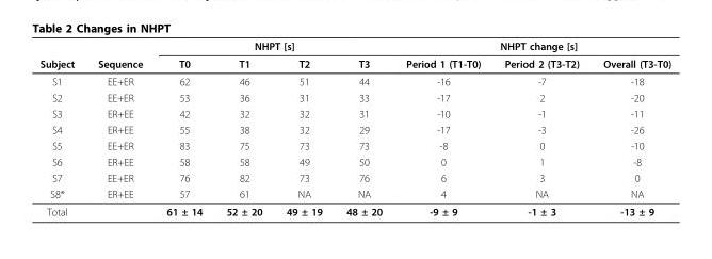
<table><thead><tr><td rowspan="2">Subject</td><td rowspan="2">Sequence</td><td colspan="4">NHPT [s]</td><td colspan="3">NHPT change [s]</td></tr><tr><td>T0</td><td>T1</td><td>T2</td><td>T3</td><td>Period 1 (T1-T0)</td><td>Period 2 (T3-T2)</td><td>Overall (T3-T0)</td></tr></thead><tbody><tr><td>S1</td><td>EE+ER</td><td>62</td><td>46</td><td>51</td><td>44</td><td>-16</td><td>-7</td><td>-18</td></tr><tr><td>S2</td><td>EE+ER</td><td>53</td><td>36</td><td>31</td><td>33</td><td>-17</td><td>2</td><td>-20</td></tr><tr><td>S3</td><td>ER+EE</td><td>42</td><td>32</td><td>32</td><td>31</td><td>-10</td><td>-1</td><td>-11</td></tr><tr><td>S4</td><td>ER+EE</td><td>55</td><td>38</td><td>32</td><td>29</td><td>-17</td><td>-3</td><td>-26</td></tr><tr><td>S5</td><td>EE+ER</td><td>83</td><td>75</td><td>73</td><td>73</td><td>-8</td><td>0</td><td>-10</td></tr><tr><td>S6</td><td>ER+EE</td><td>58</td><td>58</td><td>49</td><td>50</td><td>0</td><td>1</td><td>-8</td></tr><tr><td>S7</td><td>EE+ER</td><td>76</td><td>82</td><td>73</td><td>76</td><td>6</td><td>3</td><td>0</td></tr><tr><td>S8*</td><td>ER+EE</td><td>57</td><td>61</td><td>NA</td><td>NA</td><td>4</td><td>NA</td><td>NA</td></tr><tr><td>Total</td><td></td><td>61 ± 14</td><td>52 ± 20</td><td>49 ± 19</td><td>48 ± 20</td><td>-9 ± 9</td><td>-1 ± 3</td><td>-13 ± 9</td></tr></tbody></table>